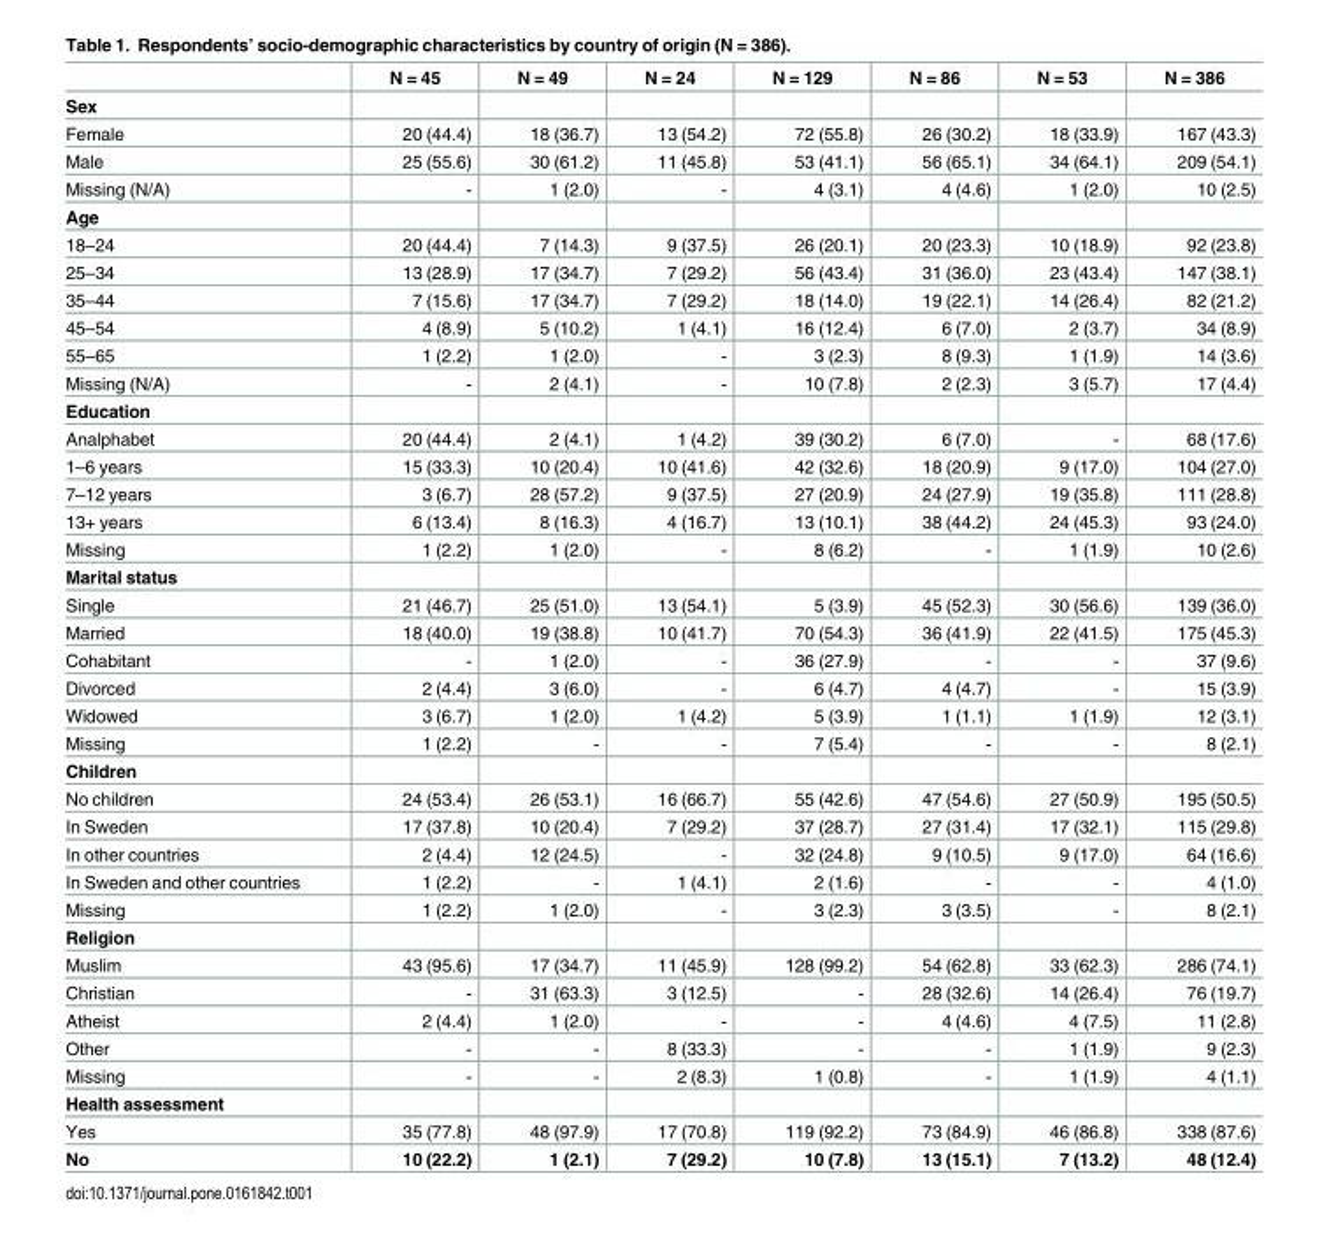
<table><thead><tr><td></td><td>N = 45</td><td>N = 49</td><td>N = 24</td><td>N = 129</td><td>N = 86</td><td>N = 53</td><td>N = 386</td></tr></thead><tbody><tr><td colspan="8">Sex</td></tr><tr><td>Female</td><td>20 (44.4)</td><td>18 (36.7)</td><td>13 (54.2)</td><td>72 (55.8)</td><td>26 (30.2)</td><td>18 (33.9)</td><td>167 (43.3)</td></tr><tr><td>Male</td><td>25 (55.6)</td><td>30 (61.2)</td><td>11 (45.8)</td><td>53 (41.1)</td><td>56 (65.1)</td><td>34 (64.1)</td><td>209 (54.1)</td></tr><tr><td>Missing (N/A)</td><td>-</td><td>1 (2.0)</td><td>-</td><td>4 (3.1)</td><td>4 (4.6)</td><td>1 (2.0)</td><td>10 (2.5)</td></tr><tr><td colspan="8">Age</td></tr><tr><td>18–24</td><td>20 (44.4)</td><td>7 (14.3)</td><td>9 (37.5)</td><td>26 (20.1)</td><td>20 (23.3)</td><td>10 (18.9)</td><td>92 (23.8)</td></tr><tr><td>25–34</td><td>13 (28.9)</td><td>17 (34.7)</td><td>7 (29.2)</td><td>56 (43.4)</td><td>31 (36.0)</td><td>23 (43.4)</td><td>147 (38.1)</td></tr><tr><td>35–44</td><td>7 (15.6)</td><td>17 (34.7)</td><td>7 (29.2)</td><td>18 (14.0)</td><td>19 (22.1)</td><td>14 (26.4)</td><td>82 (21.2)</td></tr><tr><td>45–54</td><td>4 (8.9)</td><td>5 (10.2)</td><td>1 (4.1)</td><td>16 (12.4)</td><td>6 (7.0)</td><td>2 (3.7)</td><td>34 (8.9)</td></tr><tr><td>55–65</td><td>1 (2.2)</td><td>1 (2.0)</td><td>-</td><td>3 (2.3)</td><td>8 (9.3)</td><td>1 (1.9)</td><td>14 (3.6)</td></tr><tr><td>Missing (N/A)</td><td>-</td><td>2 (4.1)</td><td>-</td><td>10 (7.8)</td><td>2 (2.3)</td><td>3 (5.7)</td><td>17 (4.4)</td></tr><tr><td colspan="8">Education</td></tr><tr><td>Analphabet</td><td>20 (44.4)</td><td>2 (4.1)</td><td>1 (4.2)</td><td>39 (30.2)</td><td>6 (7.0)</td><td>-</td><td>68 (17.6)</td></tr><tr><td>1–6 years</td><td>15 (33.3)</td><td>10 (20.4)</td><td>10 (41.6)</td><td>42 (32.6)</td><td>18 (20.9)</td><td>9 (17.0)</td><td>104 (27.0)</td></tr><tr><td>7–12 years</td><td>3 (6.7)</td><td>28 (57.2)</td><td>9 (37.5)</td><td>27 (20.9)</td><td>24 (27.9)</td><td>19 (35.8)</td><td>111 (28.8)</td></tr><tr><td>13+ years</td><td>6 (13.4)</td><td>8 (16.3)</td><td>4 (16.7)</td><td>13 (10.1)</td><td>38 (44.2)</td><td>24 (45.3)</td><td>93 (24.0)</td></tr><tr><td>Missing</td><td>1 (2.2)</td><td>1 (2.0)</td><td>-</td><td>8 (6.2)</td><td>-</td><td>1 (1.9)</td><td>10 (2.6)</td></tr><tr><td colspan="8">Marital status</td></tr><tr><td>Single</td><td>21 (46.7)</td><td>25 (51.0)</td><td>13 (54.1)</td><td>5 (3.9)</td><td>45 (52.3)</td><td>30 (56.6)</td><td>139 (36.0)</td></tr><tr><td>Married</td><td>18 (40.0)</td><td>19 (38.8)</td><td>10 (41.7)</td><td>70 (54.3)</td><td>36 (41.9)</td><td>22 (41.5)</td><td>175 (45.3)</td></tr><tr><td>Cohabitant</td><td>-</td><td>1 (2.0)</td><td>-</td><td>36 (27.9)</td><td>-</td><td>-</td><td>37 (9.6)</td></tr><tr><td>Divorced</td><td>2 (4.4)</td><td>3 (6.0)</td><td>-</td><td>6 (4.7)</td><td>4 (4.7)</td><td>-</td><td>15 (3.9)</td></tr><tr><td>Widowed</td><td>3 (6.7)</td><td>1 (2.0)</td><td>1 (4.2)</td><td>5 (3.9)</td><td>1 (1.1)</td><td>1 (1.9)</td><td>12 (3.1)</td></tr><tr><td>Missing</td><td>1 (2.2)</td><td>-</td><td>-</td><td>7 (5.4)</td><td>-</td><td>-</td><td>8 (2.1)</td></tr><tr><td colspan="8">Children</td></tr><tr><td>No children</td><td>24 (53.4)</td><td>26 (53.1)</td><td>16 (66.7)</td><td>55 (42.6)</td><td>47 (54.6)</td><td>27 (50.9)</td><td>195 (50.5)</td></tr><tr><td>In Sweden</td><td>17 (37.8)</td><td>10 (20.4)</td><td>7 (29.2)</td><td>37 (28.7)</td><td>27 (31.4)</td><td>17 (32.1)</td><td>115 (29.8)</td></tr><tr><td>In other countries</td><td>2 (4.4)</td><td>12 (24.5)</td><td>-</td><td>32 (24.8)</td><td>9 (10.5)</td><td>9 (17.0)</td><td>64 (16.6)</td></tr><tr><td>In Sweden and other countries</td><td>1 (2.2)</td><td>-</td><td>1 (4.1)</td><td>2 (1.6)</td><td>-</td><td>-</td><td>4 (1.0)</td></tr><tr><td>Missing</td><td>1 (2.2)</td><td>1 (2.0)</td><td>-</td><td>3 (2.3)</td><td>3 (3.5)</td><td>-</td><td>8 (2.1)</td></tr><tr><td colspan="8">Religion</td></tr><tr><td>Muslim</td><td>43 (95.6)</td><td>17 (34.7)</td><td>11 (45.9)</td><td>128 (99.2)</td><td>54 (62.8)</td><td>33 (62.3)</td><td>286 (74.1)</td></tr><tr><td>Christian</td><td>-</td><td>31 (63.3)</td><td>3 (12.5)</td><td>-</td><td>28 (32.6)</td><td>14 (26.4)</td><td>76 (19.7)</td></tr><tr><td>Atheist</td><td>2 (4.4)</td><td>1 (2.0)</td><td>-</td><td>-</td><td>4 (4.6)</td><td>4 (7.5)</td><td>11 (2.8)</td></tr><tr><td>Other</td><td>-</td><td>-</td><td>8 (33.3)</td><td>-</td><td>-</td><td>1 (1.9)</td><td>9 (2.3)</td></tr><tr><td>Missing</td><td>-</td><td>-</td><td>2 (8.3)</td><td>1 (0.8)</td><td>-</td><td>1 (1.9)</td><td>4 (1.1)</td></tr><tr><td colspan="8">Health assessment</td></tr><tr><td>Yes</td><td>35 (77.8)</td><td>48 (97.9)</td><td>17 (70.8)</td><td>119 (92.2)</td><td>73 (84.9)</td><td>46 (86.8)</td><td>338 (87.6)</td></tr><tr><td>No</td><td>10 (22.2)</td><td>1 (2.1)</td><td>7 (29.2)</td><td>10 (7.8)</td><td>13 (15.1)</td><td>7 (13.2)</td><td>48 (12.4)</td></tr></tbody></table>